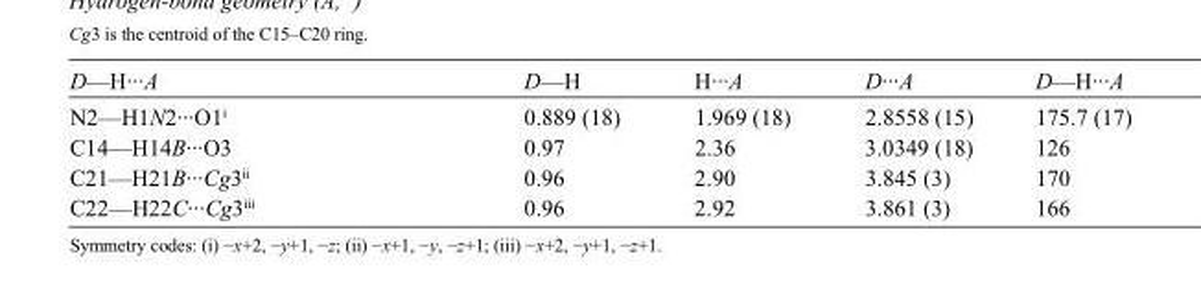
<table><tbody><tr><td>D—H···A</td><td>D—H</td><td>H···A</td><td>D···A</td><td>D—H···A</td></tr><tr><td>N2—H1N2···O1<sup>i</sup></td><td>0.889 (18)</td><td>1.969 (18)</td><td>2.8558 (15)</td><td>175.7 (17)</td></tr><tr><td>C14—H14B···O3</td><td>0.97</td><td>2.36</td><td>3.0349 (18)</td><td>126</td></tr><tr><td>C21—H21B···Cg3<sup>ii</sup></td><td>0.96</td><td>2.90</td><td>3.845 (3)</td><td>170</td></tr><tr><td>C22—H22C···Cg3<sup>iii</sup></td><td>0.96</td><td>2.92</td><td>3.861 (3)</td><td>166</td></tr></tbody></table>